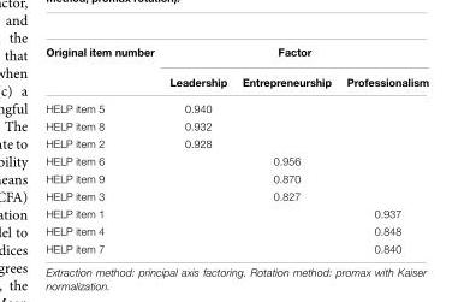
<table><thead><tr><td rowspan="2">Original item number</td><td colspan="3">Factor</td></tr><tr><td>Leadership</td><td>Entrepreneurship</td><td>Professionalism</td></tr></thead><tbody><tr><td>HELP item 5</td><td>0.940</td><td></td><td></td></tr><tr><td>HELP item 8</td><td>0.932</td><td></td><td></td></tr><tr><td>HELP item 2</td><td>0.928</td><td></td><td></td></tr><tr><td>HELP item 6</td><td></td><td>0.956</td><td></td></tr><tr><td>HELP item 9</td><td></td><td>0.870</td><td></td></tr><tr><td>HELP item 3</td><td></td><td>0.827</td><td></td></tr><tr><td>HELP item 1</td><td></td><td></td><td>0.937</td></tr><tr><td>HELP item 4</td><td></td><td></td><td>0.848</td></tr><tr><td>HELP item 7</td><td></td><td></td><td>0.840</td></tr></tbody></table>